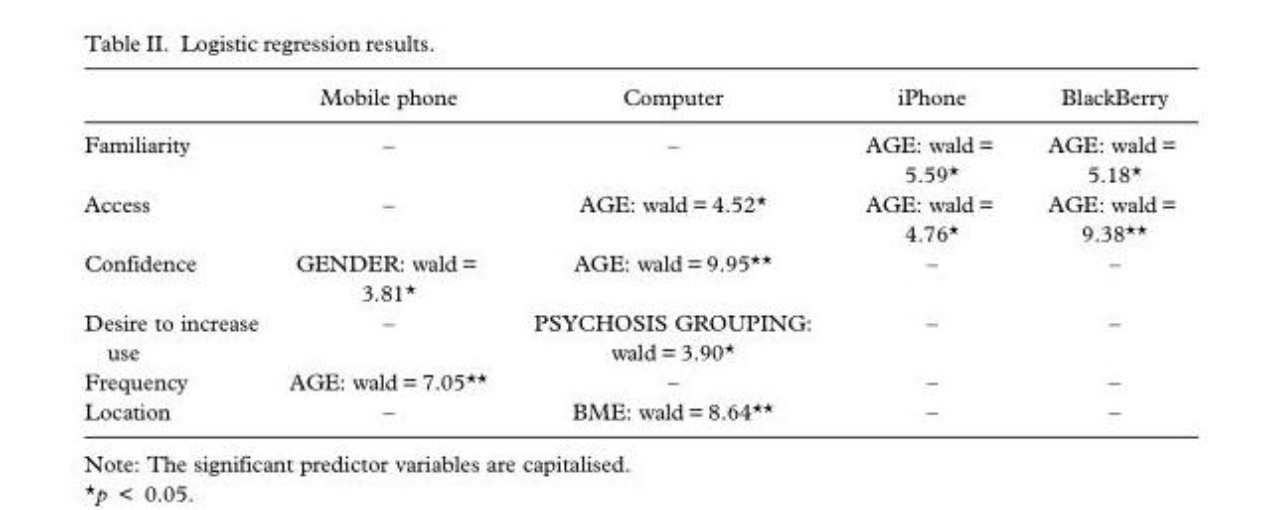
<table><thead><tr><td></td><td>Mobile phone</td><td>Computer</td><td>iPhone</td><td>BlackBerry</td></tr></thead><tbody><tr><td>Familiarity</td><td>–</td><td>–</td><td>AGE: wald = 5.59*</td><td>AGE: wald = 5.18*</td></tr><tr><td>Access</td><td>–</td><td>AGE: wald = 4.52*</td><td>AGE: wald = 4.76*</td><td>AGE: wald = 9.38**</td></tr><tr><td>Confidence</td><td>GENDER: wald = 3.81*</td><td>AGE: wald = 9.95**</td><td>–</td><td>–</td></tr><tr><td>Desire to increase use</td><td>–</td><td>PSYCHOSIS GROUPING: wald = 3.90*</td><td>–</td><td>–</td></tr><tr><td>Frequency</td><td>AGE: wald = 7.05**</td><td>–</td><td>–</td><td>–</td></tr><tr><td>Location</td><td>–</td><td>BME: wald = 8.64**</td><td>–</td><td>–</td></tr></tbody></table>